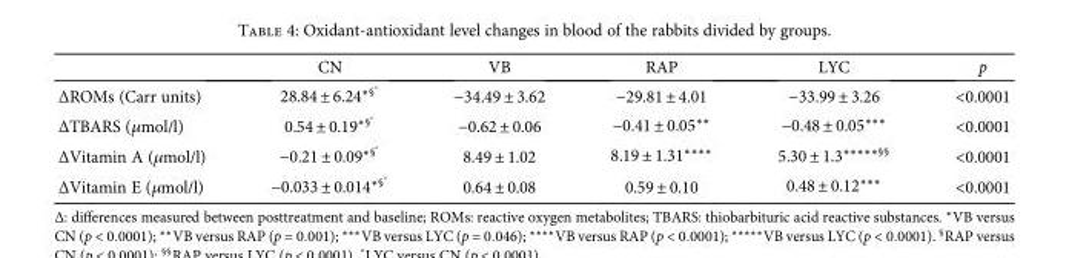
<table><thead><tr><td></td><td>CN</td><td>VB</td><td>RAP</td><td>LYC</td><td>p</td></tr></thead><tbody><tr><td>ΔROMs (Carr units)</td><td>28.84 ± 6.24<sup>∗§°</sup></td><td>−34.49 ± 3.62</td><td>−29.81 ± 4.01</td><td>−33.99 ± 3.26</td><td>&lt;0.0001</td></tr><tr><td>ΔTBARS (μmol/l)</td><td>0.54 ± 0.19<sup>∗§°</sup></td><td>−0.62 ± 0.06</td><td>−0.41 ± 0.05∗∗</td><td>−0.48 ± 0.05∗∗∗</td><td>&lt;0.0001</td></tr><tr><td>ΔVitamin A (μmol/l)</td><td>−0.21 ± 0.09<sup>∗§°</sup></td><td>8.49 ± 1.02</td><td>8.19 ± 1.31∗∗∗∗</td><td>5.30 ± 1.3<sup>∗∗∗∗∗§§</sup></td><td>&lt;0.0001</td></tr><tr><td>ΔVitamin E (μmol/l)</td><td>−0.033 ± 0.014<sup>∗§°</sup></td><td>0.64 ± 0.08</td><td>0.59 ± 0.10</td><td>0.48 ± 0.12∗∗∗</td><td>&lt;0.0001</td></tr></tbody></table>